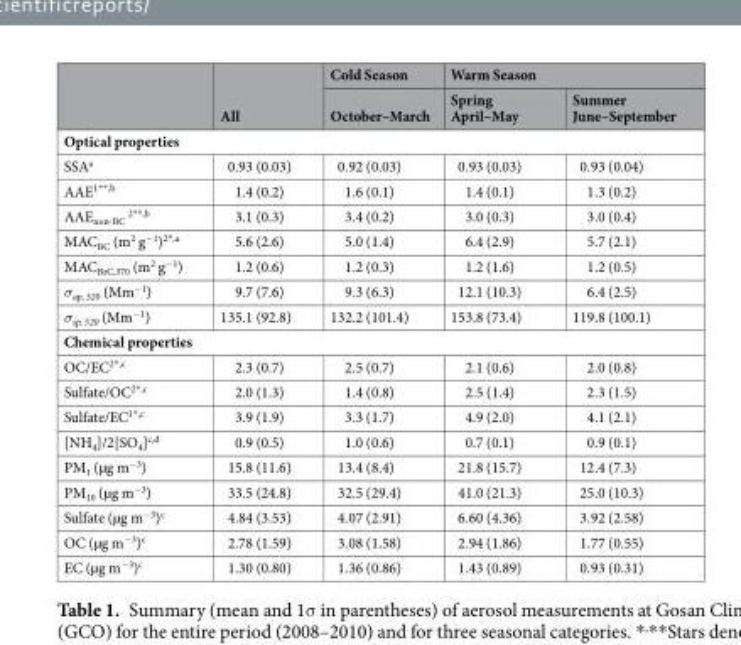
<table><thead><tr><td rowspan="2"></td><td rowspan="2">All</td><td rowspan="2">Cold Season October–March</td><td colspan="2">Warm Season</td></tr><tr><td>Spring April–May</td><td>Summer June–September</td></tr></thead><tbody><tr><td colspan="5">Optical properties</td></tr><tr><td>SSA<sup>a</sup></td><td>0.93 (0.03)</td><td>0.92 (0.03)</td><td>0.93 (0.03)</td><td>0.93 (0.04)</td></tr><tr><td>AAE<sup>1**,b</sup></td><td>1.4 (0.2)</td><td>1.6 (0.1)</td><td>1.4 (0.1)</td><td>1.3 (0.2)</td></tr><tr><td>AAE<sub>non-BC</sub> <sup>2**,b</sup></td><td>3.1 (0.3)</td><td>3.4 (0.2)</td><td>3.0 (0.3)</td><td>3.0 (0.4)</td></tr><tr><td>MAC<sub>BC</sub> (m<sup>2</sup> g<sup>−1</sup>)<sup>2*,a</sup></td><td>5.6 (2.6)</td><td>5.0 (1.4)</td><td>6.4 (2.9)</td><td>5.7 (2.1)</td></tr><tr><td>MAC<sub>BrC,370</sub> (m<sup>2</sup> g<sup>−1</sup>)</td><td>1.2 (0.6)</td><td>1.2 (0.3)</td><td>1.2 (1.6)</td><td>1.2 (0.5)</td></tr><tr><td>σ<sub>ap, 520</sub> (Mm<sup>−1</sup>)</td><td>9.7 (7.6)</td><td>9.3 (6.3)</td><td>12.1 (10.3)</td><td>6.4 (2.5)</td></tr><tr><td>σ<sub>sp, 520</sub> (Mm<sup>−1</sup>)</td><td>135.1 (92.8)</td><td>132.2 (101.4)</td><td>153.8 (73.4)</td><td>119.8 (100.1)</td></tr><tr><td colspan="5">Chemical properties</td></tr><tr><td>OC/EC<sup>2*,c</sup></td><td>2.3 (0.7)</td><td>2.5 (0.7)</td><td>2.1 (0.6)</td><td>2.0 (0.8)</td></tr><tr><td>Sulfate/OC<sup>2*,c</sup></td><td>2.0 (1.3)</td><td>1.4 (0.8)</td><td>2.5 (1.4)</td><td>2.3 (1.5)</td></tr><tr><td>Sulfate/EC<sup>1*,c</sup></td><td>3.9 (1.9)</td><td>3.3 (1.7)</td><td>4.9 (2.0)</td><td>4.1 (2.1)</td></tr><tr><td>[NH<sub>4</sub>]/2[SO<sub>4</sub>]<sup>c,d</sup></td><td>0.9 (0.5)</td><td>1.0 (0.6)</td><td>0.7 (0.1)</td><td>0.9 (0.1)</td></tr><tr><td>PM<sub>1</sub> (µg m<sup>−3</sup>)</td><td>15.8 (11.6)</td><td>13.4 (8.4)</td><td>21.8 (15.7)</td><td>12.4 (7.3)</td></tr><tr><td>PM<sub>10</sub> (µg m<sup>−3</sup>)</td><td>33.5 (24.8)</td><td>32.5 (29.4)</td><td>41.0 (21.3)</td><td>25.0 (10.3)</td></tr><tr><td>Sulfate (µg m<sup>−3</sup>)<sup>c</sup></td><td>4.84 (3.53)</td><td>4.07 (2.91)</td><td>6.60 (4.36)</td><td>3.92 (2.58)</td></tr><tr><td>OC (µg m<sup>−3</sup>)<sup>c</sup></td><td>2.78 (1.59)</td><td>3.08 (1.58)</td><td>2.94 (1.86)</td><td>1.77 (0.55)</td></tr><tr><td>EC (µg m<sup>−3</sup>)<sup>c</sup></td><td>1.30 (0.80)</td><td>1.36 (0.86)</td><td>1.43 (0.89)</td><td>0.93 (0.31)</td></tr></tbody></table>